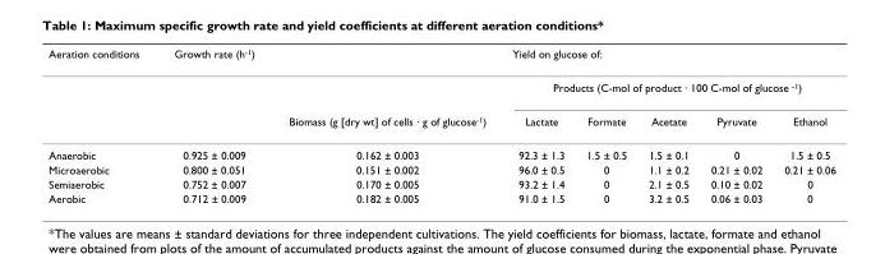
<table><thead><tr><td rowspan="3">Aeration conditions</td><td rowspan="3">Growth rate (h<sup>-1</sup>)</td><td colspan="6">Yield on glucose of:</td></tr><tr><td rowspan="2">Biomass (g [dry wt] of cells · g of glucose<sup>-1</sup>)</td><td colspan="5">Products (C-mol of product · 100 C-mol of glucose <sup>-1</sup>)</td></tr><tr><td>Lactate</td><td>Formate</td><td>Acetate</td><td>Pyruvate</td><td>Ethanol</td></tr></thead><tbody><tr><td>Anaerobic</td><td>0.925 ± 0.009</td><td>0.162 ± 0.003</td><td>92.3 ± 1.3</td><td>1.5 ± 0.5</td><td>1.5 ± 0.1</td><td>0</td><td>1.5 ± 0.5</td></tr><tr><td>Microaerobic</td><td>0.800 ± 0.051</td><td>0.151 ± 0.002</td><td>96.0 ± 0.5</td><td>0</td><td>1.1 ± 0.2</td><td>0.21 ± 0.02</td><td>0.21 ± 0.06</td></tr><tr><td>Semiaerobic</td><td>0.752 ± 0.007</td><td>0.170 ± 0.005</td><td>93.2 ± 1.4</td><td>0</td><td>2.1 ± 0.5</td><td>0.10 ± 0.02</td><td>0</td></tr><tr><td>Aerobic</td><td>0.712 ± 0.009</td><td>0.182 ± 0.005</td><td>91.0 ± 1.5</td><td>0</td><td>3.2 ± 0.5</td><td>0.06 ± 0.03</td><td>0</td></tr></tbody></table>